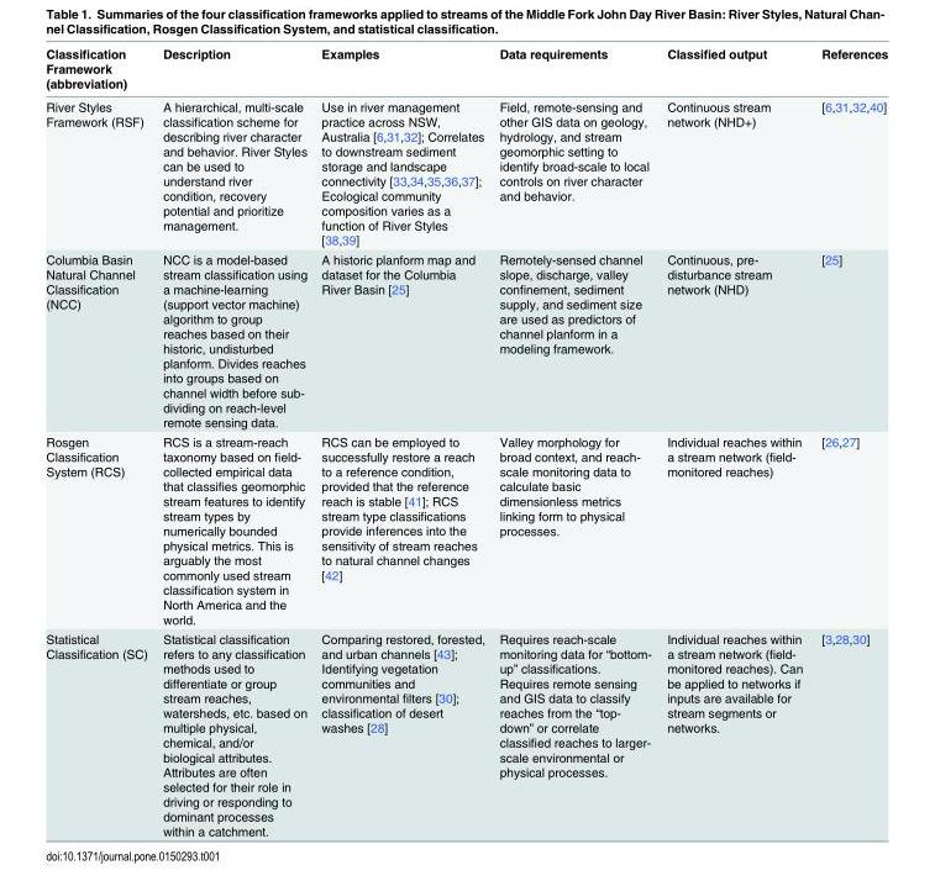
<table><thead><tr><td>Classification Framework (abbreviation)</td><td>Description</td><td>Examples</td><td>Data requirements</td><td>Classified output</td><td>References</td></tr></thead><tbody><tr><td>River Styles Framework (RSF)</td><td>A hierarchical, multi-scale classification scheme for describing river character and behavior. River Styles can be used to understand river condition, recovery potential and prioritize management.</td><td>Use in river management practice across NSW, Australia [6,31,32]; Correlates to downstream sediment storage and landscape connectivity [33,34,35,36,37]; Ecological community composition varies as a function of River Styles [38,39]</td><td>Field, remote-sensing and other GIS data on geology, hydrology, and stream geomorphic setting to identify broad-scale to local controls on river character and behavior.</td><td>Continuous stream network (NHD+)</td><td>[6,31,32,40]</td></tr><tr><td>Columbia Basin Natural Channel Classification (NCC)</td><td>NCC is a model-based stream classification using a machine-learning (support vector machine) algorithm to group reaches based on their historic, undisturbed planform. Divides reaches into groups based on channel width before sub- dividing on reach-level remote sensing data.</td><td>A historic planform map and dataset for the Columbia River Basin [25]</td><td>Remotely-sensed channel slope, discharge, valley confinement, sediment supply, and sediment size are used as predictors of channel planform in a modeling framework.</td><td>Continuous, pre- disturbance stream network (NHD)</td><td>[25]</td></tr><tr><td>Rosgen Classification System (RCS)</td><td>RCS is a stream-reach taxonomy based on field- collected empirical data that classifies geomorphic stream features to identify stream types by numerically bounded physical metrics. This is arguably the most commonly used stream classification system in North America and the world.</td><td>RCS can be employed to successfully restore a reach to a reference condition, provided that the reference reach is stable [41]; RCS stream type classifications provide inferences into the sensitivity of stream reaches to natural channel changes [42]</td><td>Valley morphology for broad context, and reach- scale monitoring data to calculate basic dimensionless metrics linking form to physical processes.</td><td>Individual reaches within a stream network (field- monitored reaches)</td><td>[26,27]</td></tr><tr><td>Statistical Classification (SC)</td><td>Statistical classification refers to any classification methods used to differentiate or group stream reaches, watersheds, etc. based on multiple physical, chemical, and/or biological attributes. Attributes are often selected for their role in driving or responding to dominant processes within a catchment.</td><td>Comparing restored, forested, and urban channels [43]; Identifying vegetation communities and environmental filters [30]; classification of desert washes [28]</td><td>Requires reach-scale monitoring data for “bottom- up” classifications. Requires remote sensing and GIS data to classify reaches from the “top- down” or correlate classified reaches to larger- scale environmental or physical processes.</td><td>Individual reaches within a stream network (field- monitored reaches). Can be applied to networks if inputs are available for stream segments or networks.</td><td>[3,28,30]</td></tr></tbody></table>